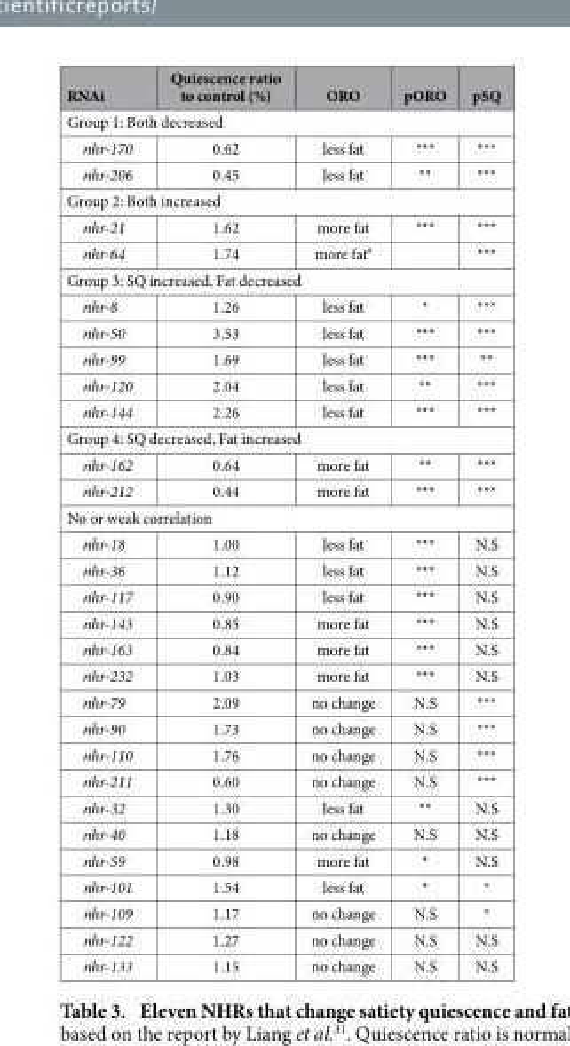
<table><thead><tr><td>RNAi</td><td>Quiescence ratio to control (%)</td><td>ORO</td><td>pORO</td><td>pSQ</td></tr></thead><tbody><tr><td colspan="5">Group 1: Both decreased</td></tr><tr><td>nhr-170</td><td>0.62</td><td>less fat</td><td>***</td><td>***</td></tr><tr><td>nhr-206</td><td>0.45</td><td>less fat</td><td>**</td><td>***</td></tr><tr><td colspan="5">Group 2: Both increased</td></tr><tr><td>nhr-21</td><td>1.62</td><td>more fat</td><td>***</td><td>***</td></tr><tr><td>nhr-64</td><td>1.74</td><td>more fat<sup>#</sup></td><td></td><td>***</td></tr><tr><td colspan="5">Group 3: SQ increased, Fat decreased</td></tr><tr><td>nhr-8</td><td>1.26</td><td>less fat</td><td>*</td><td>***</td></tr><tr><td>nhr-50</td><td>3.53</td><td>less fat</td><td>***</td><td>***</td></tr><tr><td>nhr-99</td><td>1.69</td><td>less fat</td><td>***</td><td>**</td></tr><tr><td>nhr-120</td><td>2.04</td><td>less fat</td><td>**</td><td>***</td></tr><tr><td>nhr-144</td><td>2.26</td><td>less fat</td><td>***</td><td>***</td></tr><tr><td colspan="5">Group 4: SQ decreased, Fat increased</td></tr><tr><td>nhr-162</td><td>0.64</td><td>more fat</td><td>**</td><td>***</td></tr><tr><td>nhr-212</td><td>0.44</td><td>more fat</td><td>***</td><td>***</td></tr><tr><td colspan="5">No or weak correlation</td></tr><tr><td>nhr-18</td><td>1.00</td><td>less fat</td><td>***</td><td>N.S</td></tr><tr><td>nhr-36</td><td>1.12</td><td>less fat</td><td>***</td><td>N.S</td></tr><tr><td>nhr-117</td><td>0.90</td><td>less fat</td><td>***</td><td>N.S</td></tr><tr><td>nhr-143</td><td>0.85</td><td>more fat</td><td>***</td><td>N.S</td></tr><tr><td>nhr-163</td><td>0.84</td><td>more fat</td><td>***</td><td>N.S</td></tr><tr><td>nhr-232</td><td>1.03</td><td>more fat</td><td>***</td><td>N.S</td></tr><tr><td>nhr-79</td><td>2.09</td><td>no change</td><td>N.S</td><td>***</td></tr><tr><td>nhr-90</td><td>1.73</td><td>no change</td><td>N.S</td><td>***</td></tr><tr><td>nhr-110</td><td>1.76</td><td>no change</td><td>N.S</td><td>***</td></tr><tr><td>nhr-211</td><td>0.60</td><td>no change</td><td>N.S</td><td>***</td></tr><tr><td>nhr-32</td><td>1.30</td><td>less fat</td><td>**</td><td>N.S</td></tr><tr><td>nhr-40</td><td>1.18</td><td>no change</td><td>N.S</td><td>N.S</td></tr><tr><td>nhr-59</td><td>0.98</td><td>more fat</td><td>*</td><td>N.S</td></tr><tr><td>nhr-101</td><td>1.54</td><td>less fat</td><td>*</td><td>*</td></tr><tr><td>nhr-109</td><td>1.17</td><td>no change</td><td>N.S</td><td>*</td></tr><tr><td>nhr-122</td><td>1.27</td><td>no change</td><td>N.S</td><td>N.S</td></tr><tr><td>nhr-133</td><td>1.15</td><td>no change</td><td>N.S</td><td>N.S</td></tr></tbody></table>